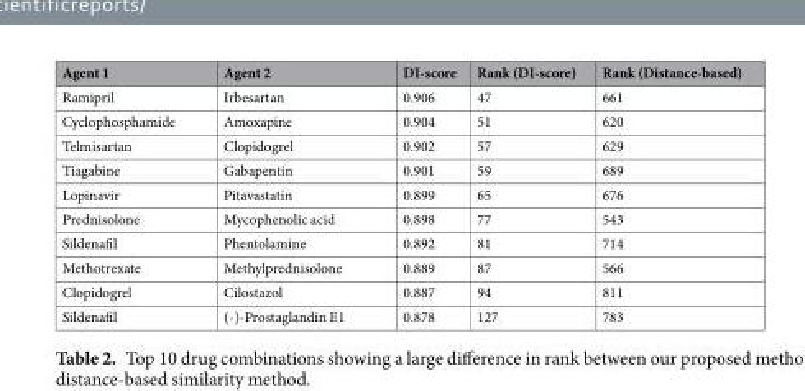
<table><thead><tr><td>Agent 1</td><td>Agent 2</td><td>DI-score</td><td>Rank (DI-score)</td><td>Rank (Distance-based)</td></tr></thead><tbody><tr><td>Ramipril</td><td>Irbesartan</td><td>0.906</td><td>47</td><td>661</td></tr><tr><td>Cyclophosphamide</td><td>Amoxapine</td><td>0.904</td><td>51</td><td>620</td></tr><tr><td>Telmisartan</td><td>Clopidogrel</td><td>0.902</td><td>57</td><td>629</td></tr><tr><td>Tiagabine</td><td>Gabapentin</td><td>0.901</td><td>59</td><td>689</td></tr><tr><td>Lopinavir</td><td>Pitavastatin</td><td>0.899</td><td>65</td><td>676</td></tr><tr><td>Prednisolone</td><td>Mycophenolic acid</td><td>0.898</td><td>77</td><td>543</td></tr><tr><td>Sildenafil</td><td>Phentolamine</td><td>0.892</td><td>81</td><td>714</td></tr><tr><td>Methotrexate</td><td>Methylprednisolone</td><td>0.889</td><td>87</td><td>566</td></tr><tr><td>Clopidogrel</td><td>Cilostazol</td><td>0.887</td><td>94</td><td>811</td></tr><tr><td>Sildenafil</td><td>(-)-Prostaglandin E1</td><td>0.878</td><td>127</td><td>783</td></tr></tbody></table>